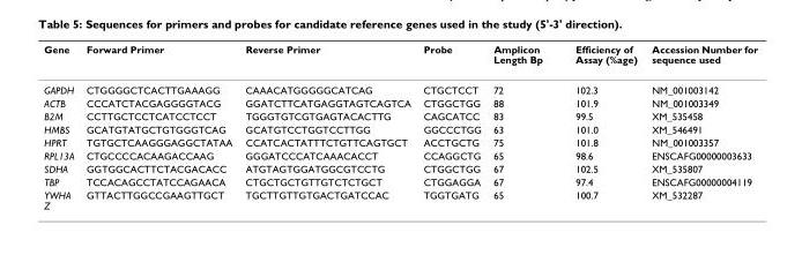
<table><thead><tr><td>Gene</td><td>Forward Primer</td><td>Reverse Primer</td><td>Probe</td><td>Amplicon Length Bp</td><td>Efficiency of Assay (%age)</td><td>Accession Number for sequence used</td></tr></thead><tbody><tr><td>GAPDH</td><td>CTGGGGCTCACTTGAAAGG</td><td>CAAACATGGGGGCATCAG</td><td>CTGCTCCT</td><td>72</td><td>102.3</td><td>NM_001003142</td></tr><tr><td>ACTB</td><td>CCCATCTACGAGGGGTACG</td><td>GGATCTTCATGAGGTAGTCAGTCA</td><td>CTGGCTGG</td><td>88</td><td>101.9</td><td>NM_001003349</td></tr><tr><td>B2M</td><td>CCTTGCTCCTCATCCTCCT</td><td>TGGGTGTCGTGAGTACACTTG</td><td>CAGCATCC</td><td>83</td><td>99.5</td><td>XM_535458</td></tr><tr><td>HMBS</td><td>GCATGTATGCTGTGGGTCAG</td><td>GCATGTCCTGGTCCTTGG</td><td>GGCCCTGG</td><td>63</td><td>101.0</td><td>XM_546491</td></tr><tr><td>HPRT</td><td>TGTGCTCAAGGGAGGCTATAA</td><td>CCATCACTATTTCTGTTCAGTGCT</td><td>ACCTGCTG</td><td>75</td><td>101.8</td><td>NM_001003357</td></tr><tr><td>RPL13A</td><td>CTGCCCCACAAGACCAAG</td><td>GGGATCCCATCAAACACCT</td><td>CCAGGCTG</td><td>65</td><td>98.6</td><td>ENSCAFG00000003633</td></tr><tr><td>SDHA</td><td>GGTGGCACTTCTACGACACC</td><td>ATGTAGTGGATGGCGTCCTG</td><td>CTGGCTGG</td><td>67</td><td>102.5</td><td>XM_535807</td></tr><tr><td>TBP</td><td>TCCACAGCCTATCCAGAACA</td><td>CTGCTGCTGTTGTCTCTGCT</td><td>CTGGAGGA</td><td>67</td><td>97.4</td><td>ENSCAFG00000004119</td></tr><tr><td>YWHA Z</td><td>GTTACTTGGCCGAAGTTGCT</td><td>TGCTTGTTGTGACTGATCCAC</td><td>TGGTGATG</td><td>65</td><td>100.7</td><td>XM_532287</td></tr></tbody></table>